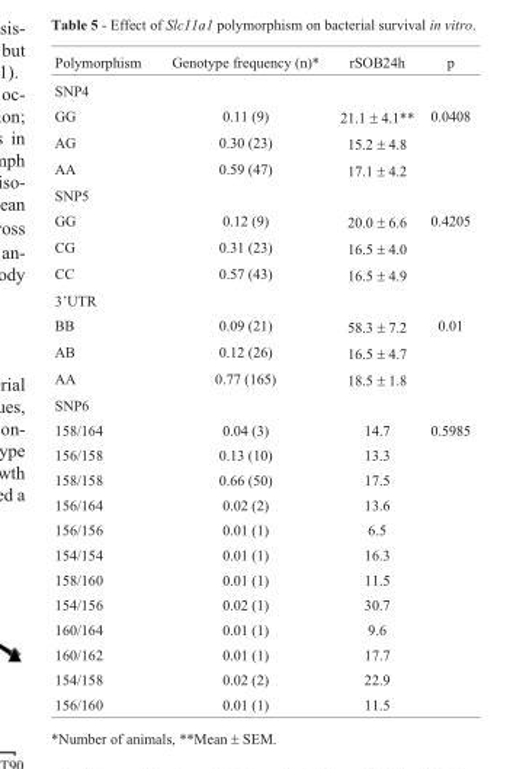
<table><thead><tr><td>Polymorphism</td><td>Genotype frequency (n)*</td><td>rSOB24h</td><td>p</td></tr></thead><tbody><tr><td colspan="4">SNP4</td></tr><tr><td>GG</td><td>0.11 (9)</td><td>21.1 ± 4.1**</td><td>0.0408</td></tr><tr><td>AG</td><td>0.30 (23)</td><td>15.2 ± 4.8</td><td></td></tr><tr><td>AA</td><td>0.59 (47)</td><td>17.1 ± 4.2</td><td></td></tr><tr><td colspan="4">SNP5</td></tr><tr><td>GG</td><td>0.12 (9)</td><td>20.0 ± 6.6</td><td>0.4205</td></tr><tr><td>CG</td><td>0.31 (23)</td><td>16.5 ± 4.0</td><td></td></tr><tr><td>CC</td><td>0.57 (43)</td><td>16.5 ± 4.9</td><td></td></tr><tr><td colspan="4">3’UTR</td></tr><tr><td>BB</td><td>0.09 (21)</td><td>58.3 ± 7.2</td><td>0.01</td></tr><tr><td>AB</td><td>0.12 (26)</td><td>16.5 ± 4.7</td><td></td></tr><tr><td>AA</td><td>0.77 (165)</td><td>18.5 ± 1.8</td><td></td></tr><tr><td colspan="4">SNP6</td></tr><tr><td>158/164</td><td>0.04 (3)</td><td>14.7</td><td>0.5985</td></tr><tr><td>156/158</td><td>0.13 (10)</td><td>13.3</td><td></td></tr><tr><td>158/158</td><td>0.66 (50)</td><td>17.5</td><td></td></tr><tr><td>156/164</td><td>0.02 (2)</td><td>13.6</td><td></td></tr><tr><td>156/156</td><td>0.01 (1)</td><td>6.5</td><td></td></tr><tr><td>154/154</td><td>0.01 (1)</td><td>16.3</td><td></td></tr><tr><td>158/160</td><td>0.01 (1)</td><td>11.5</td><td></td></tr><tr><td>154/156</td><td>0.02 (1)</td><td>30.7</td><td></td></tr><tr><td>160/164</td><td>0.01 (1)</td><td>9.6</td><td></td></tr><tr><td>160/162</td><td>0.01 (1)</td><td>17.7</td><td></td></tr><tr><td>154/158</td><td>0.02 (2)</td><td>22.9</td><td></td></tr><tr><td>156/160</td><td>0.01 (1)</td><td>11.5</td><td></td></tr></tbody></table>